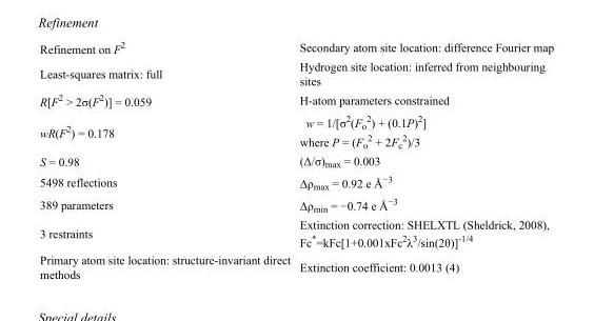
<table><tbody><tr><td>Refinement on F<sup>2</sup></td><td>Secondary atom site location: difference Fourier map</td></tr><tr><td>Least-squares matrix: full</td><td>Hydrogen site location: inferred from neighbouring sites</td></tr><tr><td>R[F<sup>2</sup> &gt; 2σ(F<sup>2</sup>)] = 0.059</td><td>H-atom parameters constrained</td></tr><tr><td>wR(F<sup>2</sup>) = 0.178</td><td>w = 1/[σ<sup>2</sup>(F<sub>o</sub> <sup>2</sup>) + (0.1P)<sup>2</sup>] where P = (F<sub>o</sub> <sup>2</sup> + 2F<sub>c</sub> <sup>2</sup>)/3</td></tr><tr><td>S = 0.98</td><td>(Δ/σ)<sub>max</sub> = 0.003</td></tr><tr><td>5498 reflections</td><td>Δρ<sub>max</sub> = 0.92 e Å<sup>−3</sup></td></tr><tr><td>389 parameters</td><td>Δρ<sub>min</sub> = −0.74 e Å<sup>−3</sup></td></tr><tr><td>3 restraints</td><td>Extinction correction: SHELXTL (Sheldrick, 2008), Fc*=kFc[1+0.001xFc<sup>2</sup>λ<sup>3</sup>/sin(2θ)]<sup>-1/4</sup></td></tr><tr><td>Primary atom site location: structure-invariant direct methods</td><td>Extinction coefficient: 0.0013 (4)</td></tr></tbody></table>